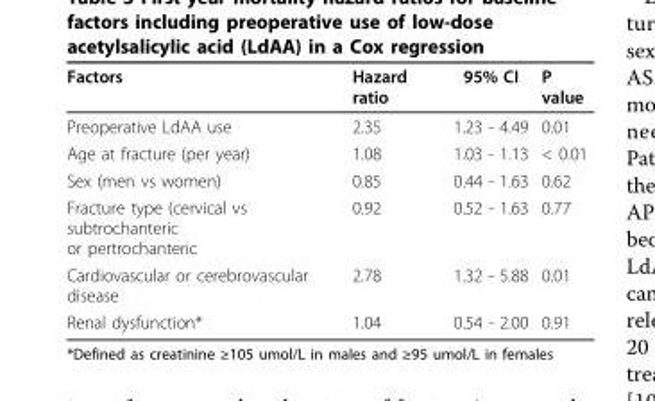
<table><thead><tr><td>Factors</td><td>Hazard ratio</td><td>95% CI</td><td>P value</td></tr></thead><tbody><tr><td>Preoperative LdAA use</td><td>2.35</td><td>1.23 - 4.49</td><td>0.01</td></tr><tr><td>Age at fracture (per year)</td><td>1.08</td><td>1.03 - 1.13</td><td>&lt; 0.01</td></tr><tr><td>Sex (men vs women)</td><td>0.85</td><td>0.44 - 1.63</td><td>0.62</td></tr><tr><td>Fracture type (cervical vs subtrochanteric or pertrochanteric</td><td>0.92</td><td>0.52 - 1.63</td><td>0.77</td></tr><tr><td>Cardiovascular or cerebrovascular disease</td><td>2.78</td><td>1.32 - 5.88</td><td>0.01</td></tr><tr><td>Renal dysfunction*</td><td>1.04</td><td>0.54 - 2.00</td><td>0.91</td></tr></tbody></table>